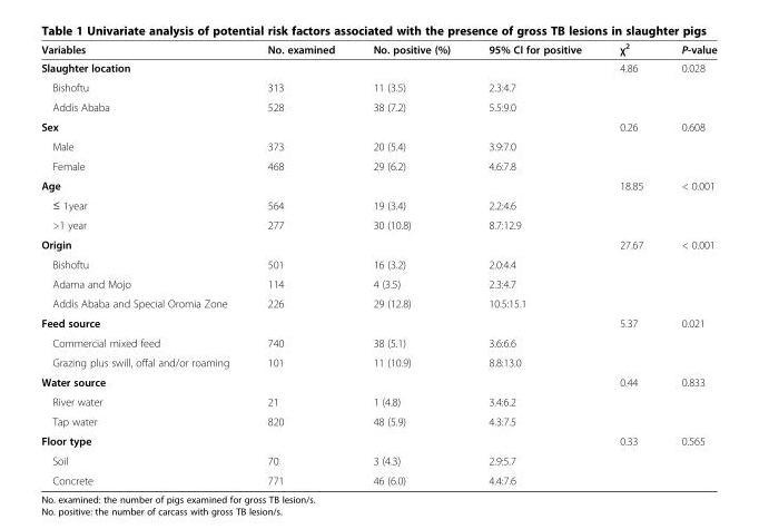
<table><thead><tr><td>Variables</td><td>No. examined</td><td>No. positive (%)</td><td>95% CI for positive</td><td>χ<sup>2</sup></td><td>P-value</td></tr></thead><tbody><tr><td>Slaughter location</td><td></td><td></td><td></td><td>4.86</td><td>0.028</td></tr><tr><td>Bishoftu</td><td>313</td><td>11 (3.5)</td><td>2.3:4.7</td><td></td><td></td></tr><tr><td>Addis Ababa</td><td>528</td><td>38 (7.2)</td><td>5.5:9.0</td><td></td><td></td></tr><tr><td>Sex</td><td></td><td></td><td></td><td>0.26</td><td>0.608</td></tr><tr><td>Male</td><td>373</td><td>20 (5.4)</td><td>3.9:7.0</td><td></td><td></td></tr><tr><td>Female</td><td>468</td><td>29 (6.2)</td><td>4.6:7.8</td><td></td><td></td></tr><tr><td>Age</td><td></td><td></td><td></td><td>18.85</td><td>&lt; 0.001</td></tr><tr><td>≤ 1year</td><td>564</td><td>19 (3.4)</td><td>2.2:4.6</td><td></td><td></td></tr><tr><td>&gt;1 year</td><td>277</td><td>30 (10.8)</td><td>8.7:12.9</td><td></td><td></td></tr><tr><td>Origin</td><td></td><td></td><td></td><td>27.67</td><td>&lt; 0.001</td></tr><tr><td>Bishoftu</td><td>501</td><td>16 (3.2)</td><td>2.0:4.4</td><td></td><td></td></tr><tr><td>Adama and Mojo</td><td>114</td><td>4 (3.5)</td><td>2.3:4.7</td><td></td><td></td></tr><tr><td>Addis Ababa and Special Oromia Zone</td><td>226</td><td>29 (12.8)</td><td>10.5:15.1</td><td></td><td></td></tr><tr><td>Feed source</td><td></td><td></td><td></td><td>5.37</td><td>0.021</td></tr><tr><td>Commercial mixed feed</td><td>740</td><td>38 (5.1)</td><td>3.6:6.6</td><td></td><td></td></tr><tr><td>Grazing plus swill, offal and/or roaming</td><td>101</td><td>11 (10.9)</td><td>8.8:13.0</td><td></td><td></td></tr><tr><td>Water source</td><td></td><td></td><td></td><td>0.44</td><td>0.833</td></tr><tr><td>River water</td><td>21</td><td>1 (4.8)</td><td>3.4:6.2</td><td></td><td></td></tr><tr><td>Tap water</td><td>820</td><td>48 (5.9)</td><td>4.3:7.5</td><td></td><td></td></tr><tr><td>Floor type</td><td></td><td></td><td></td><td>0.33</td><td>0.565</td></tr><tr><td>Soil</td><td>70</td><td>3 (4.3)</td><td>2.9:5.7</td><td></td><td></td></tr><tr><td>Concrete</td><td>771</td><td>46 (6.0)</td><td>4.4:7.6</td><td></td><td></td></tr></tbody></table>